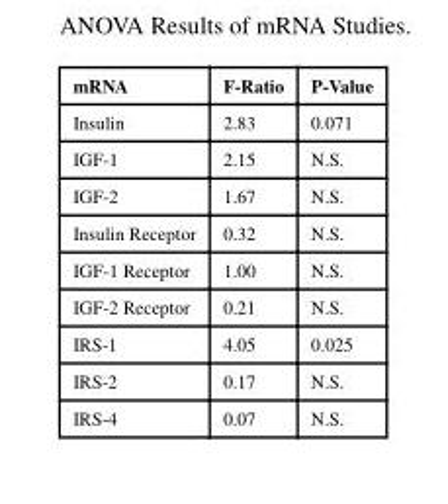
<table><thead><tr><td>mRNA</td><td>F-Ratio</td><td>P-Value</td></tr></thead><tbody><tr><td>Insulin</td><td>2.83</td><td>0.071</td></tr><tr><td>IGF-1</td><td>2.15</td><td>N.S.</td></tr><tr><td>IGF-2</td><td>1.67</td><td>N.S.</td></tr><tr><td>Insulin Receptor</td><td>0.32</td><td>N.S.</td></tr><tr><td>IGF-1 Receptor</td><td>1.00</td><td>N.S.</td></tr><tr><td>IGF-2 Receptor</td><td>0.21</td><td>N.S.</td></tr><tr><td>IRS-1</td><td>4.05</td><td>0.025</td></tr><tr><td>IRS-2</td><td>0.17</td><td>N.S.</td></tr><tr><td>IRS-4</td><td>0.07</td><td>N.S.</td></tr></tbody></table>